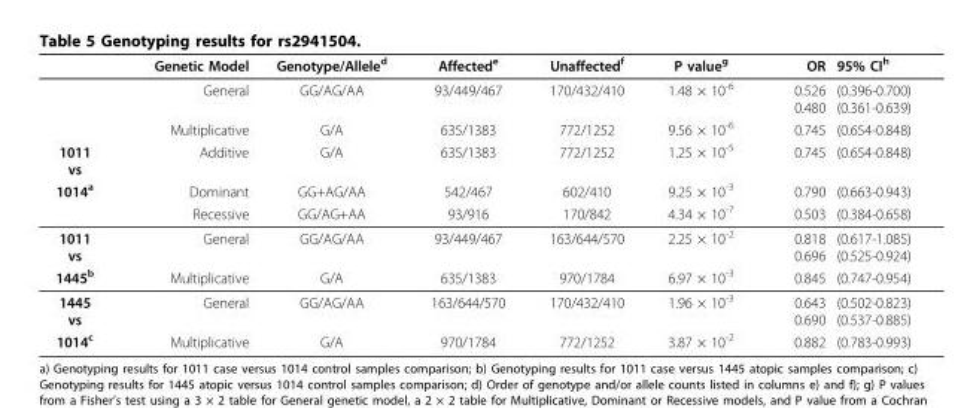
<table><thead><tr><td></td><td>Genetic Model</td><td>Genotype/Allele<sup>d</sup></td><td>Affected<sup>e</sup></td><td>Unaffected<sup>f</sup></td><td>P value<sup>g</sup></td><td>OR</td><td>95% CI<sup>h</sup></td></tr></thead><tbody><tr><td></td><td>General</td><td>GG/AG/AA</td><td>93/449/467</td><td>170/432/410</td><td>1.48 × 10<sup>-6</sup></td><td>0.526 0.480</td><td>(0.396-0.700) (0.361-0.639)</td></tr><tr><td></td><td>Multiplicative</td><td>G/A</td><td>635/1383</td><td>772/1252</td><td>9.56 × 10<sup>-6</sup></td><td>0.745</td><td>(0.654-0.848)</td></tr><tr><td>1011 vs</td><td>Additive</td><td>G/A</td><td>635/1383</td><td>772/1252</td><td>1.25 × 10<sup>-5</sup></td><td>0.745</td><td>(0.654-0.848)</td></tr><tr><td rowspan="2">1014<sup>a</sup></td><td>Dominant</td><td>GG+AG/AA</td><td>542/467</td><td>602/410</td><td>9.25 × 10<sup>-3</sup></td><td>0.790</td><td>(0.663-0.943)</td></tr><tr><td>Recessive</td><td>GG/AG+AA</td><td>93/916</td><td>170/842</td><td>4.34 × 10<sup>-7</sup></td><td>0.503</td><td>(0.384-0.658)</td></tr><tr><td>1011 vs</td><td>General</td><td>GG/AG/AA</td><td>93/449/467</td><td>163/644/570</td><td>2.25 × 10<sup>-2</sup></td><td>0.818 0.696</td><td>(0.617-1.085) (0.525-0.924)</td></tr><tr><td>1445<sup>b</sup></td><td>Multiplicative</td><td>G/A</td><td>635/1383</td><td>970/1784</td><td>6.97 × 10<sup>-3</sup></td><td>0.845</td><td>(0.747-0.954)</td></tr><tr><td>1445 vs</td><td>General</td><td>GG/AG/AA</td><td>163/644/570</td><td>170/432/410</td><td>1.96 × 10<sup>-3</sup></td><td>0.643 0.690</td><td>(0.502-0.823) (0.537-0.885)</td></tr><tr><td>1014<sup>c</sup></td><td>Multiplicative</td><td>G/A</td><td>970/1784</td><td>772/1252</td><td>3.87 × 10<sup>-2</sup></td><td>0.882</td><td>(0.783-0.993)</td></tr></tbody></table>